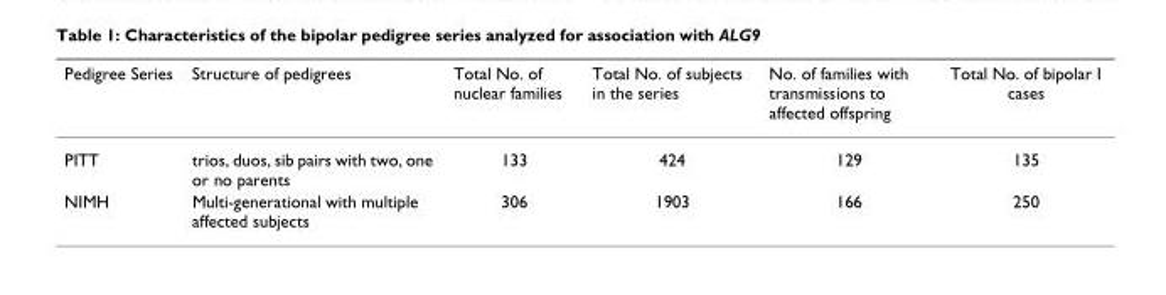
<table><thead><tr><td>Pedigree Series</td><td>Structure of pedigrees</td><td>Total No. of nuclear families</td><td>Total No. of subjects in the series</td><td>No. of families with transmissions to affected offspring</td><td>Total No. of bipolar I cases</td></tr></thead><tbody><tr><td>PITT</td><td>trios, duos, sib pairs with two, one or no parents</td><td>133</td><td>424</td><td>129</td><td>135</td></tr><tr><td>NIMH</td><td>Multi-generational with multiple affected subjects</td><td>306</td><td>1903</td><td>166</td><td>250</td></tr></tbody></table>